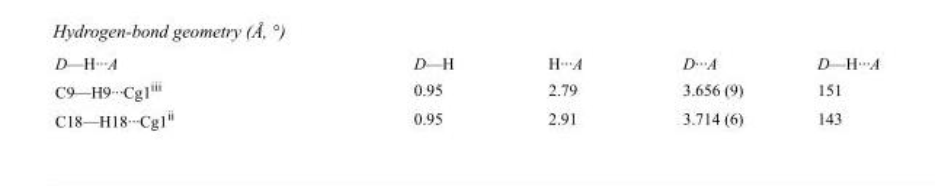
<table><tbody><tr><td>D—H···A</td><td>D—H</td><td>H···A</td><td>D···A</td><td>D—H···A</td></tr><tr><td>C9—H9···Cg1<sup>iii</sup></td><td>0.95</td><td>2.79</td><td>3.656 (9)</td><td>151</td></tr><tr><td>C18—H18···Cg1<sup>ii</sup></td><td>0.95</td><td>2.91</td><td>3.714 (6)</td><td>143</td></tr></tbody></table>